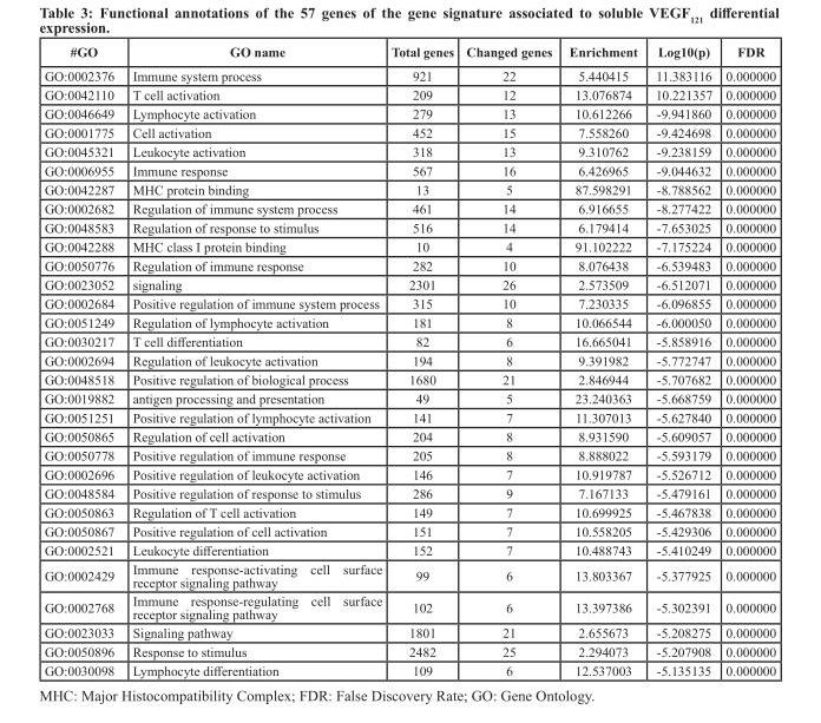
<table><thead><tr><td>#GO</td><td>GO name</td><td>Total genes</td><td>Changed genes</td><td>Enrichment</td><td>Log10(p)</td><td>FDR</td></tr></thead><tbody><tr><td>GO:0002376</td><td>Immune system process</td><td>921</td><td>22</td><td>5.440415</td><td>11.383116</td><td>0.000000</td></tr><tr><td>GO:0042110</td><td>T cell activation</td><td>209</td><td>12</td><td>13.076874</td><td>10.221357</td><td>0.000000</td></tr><tr><td>GO:0046649</td><td>Lymphocyte activation</td><td>279</td><td>13</td><td>10.612266</td><td>-9.941860</td><td>0.000000</td></tr><tr><td>GO:0001775</td><td>Cell activation</td><td>452</td><td>15</td><td>7.558260</td><td>-9.424698</td><td>0.000000</td></tr><tr><td>GO:0045321</td><td>Leukocyte activation</td><td>318</td><td>13</td><td>9.310762</td><td>-9.238159</td><td>0.000000</td></tr><tr><td>GO:0006955</td><td>Immune response</td><td>567</td><td>16</td><td>6.426965</td><td>-9.044632</td><td>0.000000</td></tr><tr><td>GO:0042287</td><td>MHC protein binding</td><td>13</td><td>5</td><td>87.598291</td><td>-8.788562</td><td>0.000000</td></tr><tr><td>GO:0002682</td><td>Regulation of immune system process</td><td>461</td><td>14</td><td>6.916655</td><td>-8.277422</td><td>0.000000</td></tr><tr><td>GO:0048583</td><td>Regulation of response to stimulus</td><td>516</td><td>14</td><td>6.179414</td><td>-7.653025</td><td>0.000000</td></tr><tr><td>GO:0042288</td><td>MHC class I protein binding</td><td>10</td><td>4</td><td>91.102222</td><td>-7.175224</td><td>0.000000</td></tr><tr><td>GO:0050776</td><td>Regulation of immune response</td><td>282</td><td>10</td><td>8.076438</td><td>-6.539483</td><td>0.000000</td></tr><tr><td>GO:0023052</td><td>signaling</td><td>2301</td><td>26</td><td>2.573509</td><td>-6.512071</td><td>0.000000</td></tr><tr><td>GO:0002684</td><td>Positive regulation of immune system process</td><td>315</td><td>10</td><td>7.230335</td><td>-6.096855</td><td>0.000000</td></tr><tr><td>GO:0051249</td><td>Regulation of lymphocyte activation</td><td>181</td><td>8</td><td>10.066544</td><td>-6.000050</td><td>0.000000</td></tr><tr><td>GO:0030217</td><td>T cell differentiation</td><td>82</td><td>6</td><td>16.665041</td><td>-5.858916</td><td>0.000000</td></tr><tr><td>GO:0002694</td><td>Regulation of leukocyte activation</td><td>194</td><td>8</td><td>9.391982</td><td>-5.772747</td><td>0.000000</td></tr><tr><td>GO:0048518</td><td>Positive regulation of biological process</td><td>1680</td><td>21</td><td>2.846944</td><td>-5.707682</td><td>0.000000</td></tr><tr><td>GO:0019882</td><td>antigen processing and presentation</td><td>49</td><td>5</td><td>23.240363</td><td>-5.668759</td><td>0.000000</td></tr><tr><td>GO:0051251</td><td>Positive regulation of lymphocyte activation</td><td>141</td><td>7</td><td>11.307013</td><td>-5.627840</td><td>0.000000</td></tr><tr><td>GO:0050865</td><td>Regulation of cell activation</td><td>204</td><td>8</td><td>8.931590</td><td>-5.609057</td><td>0.000000</td></tr><tr><td>GO:0050778</td><td>Positive regulation of immune response</td><td>205</td><td>8</td><td>8.888022</td><td>-5.593179</td><td>0.000000</td></tr><tr><td>GO:0002696</td><td>Positive regulation of leukocyte activation</td><td>146</td><td>7</td><td>10.919787</td><td>-5.526712</td><td>0.000000</td></tr><tr><td>GO:0048584</td><td>Positive regulation of response to stimulus</td><td>286</td><td>9</td><td>7.167133</td><td>-5.479161</td><td>0.000000</td></tr><tr><td>GO:0050863</td><td>Regulation of T cell activation</td><td>149</td><td>7</td><td>10.699925</td><td>-5.467838</td><td>0.000000</td></tr><tr><td>GO:0050867</td><td>Positive regulation of cell activation</td><td>151</td><td>7</td><td>10.558205</td><td>-5.429306</td><td>0.000000</td></tr><tr><td>GO:0002521</td><td>Leukocyte differentiation</td><td>152</td><td>7</td><td>10.488743</td><td>-5.410249</td><td>0.000000</td></tr><tr><td>GO:0002429</td><td>Immune response-activating cell surface receptor signaling pathway</td><td>99</td><td>6</td><td>13.803367</td><td>-5.377925</td><td>0.000000</td></tr><tr><td>GO:0002768</td><td>Immune response-regulating cell surface receptor signaling pathway</td><td>102</td><td>6</td><td>13.397386</td><td>-5.302391</td><td>0.000000</td></tr><tr><td>GO:0023033</td><td>Signaling pathway</td><td>1801</td><td>21</td><td>2.655673</td><td>-5.208275</td><td>0.000000</td></tr><tr><td>GO:0050896</td><td>Response to stimulus</td><td>2482</td><td>25</td><td>2.294073</td><td>-5.207908</td><td>0.000000</td></tr><tr><td>GO:0030098</td><td>Lymphocyte differentiation</td><td>109</td><td>6</td><td>12.537003</td><td>-5.135135</td><td>0.000000</td></tr></tbody></table>